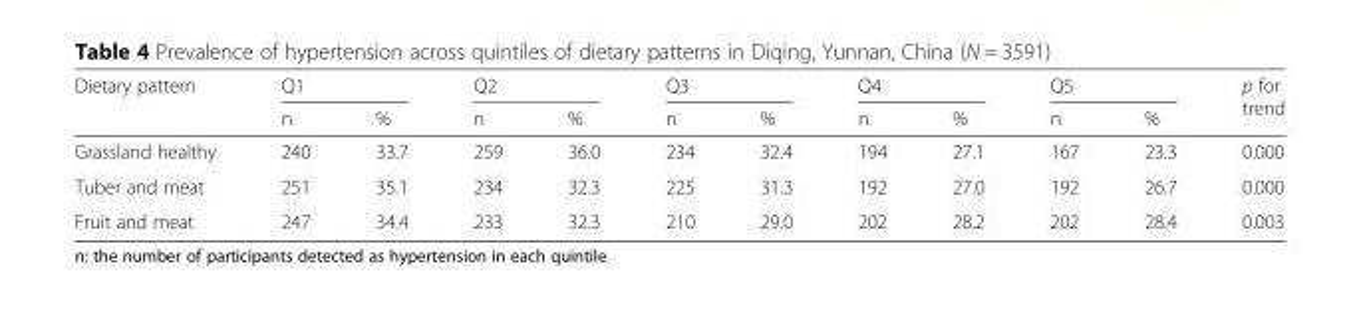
<table><thead><tr><td rowspan="2">Dietary pattern</td><td colspan="2">Q1</td><td colspan="2">Q2</td><td colspan="2">Q3</td><td colspan="2">Q4</td><td colspan="2">Q5</td><td rowspan="2">p for trend</td></tr><tr><td>n</td><td>%</td><td>n</td><td>%</td><td>n</td><td>%</td><td>n</td><td>%</td><td>n</td><td>%</td></tr></thead><tbody><tr><td>Grassland healthy</td><td>240</td><td>33.7</td><td>259</td><td>36.0</td><td>234</td><td>32.4</td><td>194</td><td>27.1</td><td>167</td><td>23.3</td><td>0.000</td></tr><tr><td>Tuber and meat</td><td>251</td><td>35.1</td><td>234</td><td>32.3</td><td>225</td><td>31.3</td><td>192</td><td>27.0</td><td>192</td><td>26.7</td><td>0.000</td></tr><tr><td>Fruit and meat</td><td>247</td><td>34.4</td><td>233</td><td>32.3</td><td>210</td><td>29.0</td><td>202</td><td>28.2</td><td>202</td><td>28.4</td><td>0.003</td></tr></tbody></table>